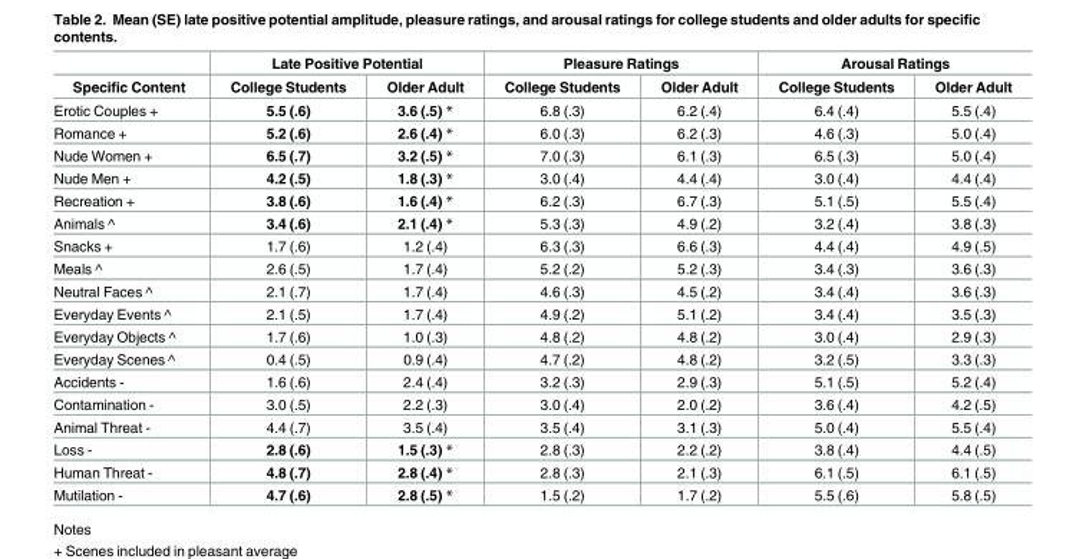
<table><thead><tr><td rowspan="2">Specific Content</td><td colspan="2">Late Positive Potential</td><td colspan="2">Pleasure Ratings</td><td colspan="2">Arousal Ratings</td></tr><tr><td>College Students</td><td>Older Adult</td><td>College Students</td><td>Older Adult</td><td>College Students</td><td>Older Adult</td></tr></thead><tbody><tr><td>Erotic Couples +</td><td>5.5 (.6)</td><td>3.6 (.5) *</td><td>6.8 (.3)</td><td>6.2 (.4)</td><td>6.4 (.4)</td><td>5.5 (.4)</td></tr><tr><td>Romance +</td><td>5.2 (.6)</td><td>2.6 (.4) *</td><td>6.0 (.3)</td><td>6.2 (.3)</td><td>4.6 (.3)</td><td>5.0 (.4)</td></tr><tr><td>Nude Women +</td><td>6.5 (.7)</td><td>3.2 (.5) *</td><td>7.0 (.3)</td><td>6.1 (.3)</td><td>6.5 (.3)</td><td>5.0 (.4)</td></tr><tr><td>Nude Men +</td><td>4.2 (.5)</td><td>1.8 (.3) *</td><td>3.0 (.4)</td><td>4.4 (.4)</td><td>3.0 (.4)</td><td>4.4 (.4)</td></tr><tr><td>Recreation +</td><td>3.8 (.6)</td><td>1.6 (.4) *</td><td>6.2 (.3)</td><td>6.7 (.3)</td><td>5.1 (.5)</td><td>5.5 (.4)</td></tr><tr><td>Animals ^</td><td>3.4 (.6)</td><td>2.1 (.4) *</td><td>5.3 (.3)</td><td>4.9 (.2)</td><td>3.2 (.4)</td><td>3.8 (.3)</td></tr><tr><td>Snacks +</td><td>1.7 (.6)</td><td>1.2 (.4)</td><td>6.3 (.3)</td><td>6.6 (.3)</td><td>4.4 (.4)</td><td>4.9 (.5)</td></tr><tr><td>Meals ^</td><td>2.6 (.5)</td><td>1.7 (.4)</td><td>5.2 (.2)</td><td>5.2 (.3)</td><td>3.4 (.3)</td><td>3.6 (.3)</td></tr><tr><td>Neutral Faces ^</td><td>2.1 (.7)</td><td>1.7 (.4)</td><td>4.6 (.3)</td><td>4.5 (.2)</td><td>3.4 (.4)</td><td>3.6 (.3)</td></tr><tr><td>Everyday Events ^</td><td>2.1 (.5)</td><td>1.7 (.4)</td><td>4.9 (.2)</td><td>5.1 (.2)</td><td>3.4 (.4)</td><td>3.5 (.3)</td></tr><tr><td>Everyday Objects ^</td><td>1.7 (.6)</td><td>1.0 (.3)</td><td>4.8 (.2)</td><td>4.8 (.2)</td><td>3.0 (.4)</td><td>2.9 (.3)</td></tr><tr><td>Everyday Scenes ^</td><td>0.4 (.5)</td><td>0.9 (.4)</td><td>4.7 (.2)</td><td>4.8 (.2)</td><td>3.2 (.5)</td><td>3.3 (.3)</td></tr><tr><td>Accidents -</td><td>1.6 (.6)</td><td>2.4 (.4)</td><td>3.2 (.3)</td><td>2.9 (.3)</td><td>5.1 (.5)</td><td>5.2 (.4)</td></tr><tr><td>Contamination -</td><td>3.0 (.5)</td><td>2.2 (.3)</td><td>3.0 (.4)</td><td>2.0 (.2)</td><td>3.6 (.4)</td><td>4.2 (.5)</td></tr><tr><td>Animal Threat -</td><td>4.4 (.7)</td><td>3.5 (.4)</td><td>3.5 (.4)</td><td>3.1 (.3)</td><td>5.0 (.4)</td><td>5.5 (.4)</td></tr><tr><td>Loss -</td><td>2.8 (.6)</td><td>1.5 (.3) *</td><td>2.8 (.3)</td><td>2.2 (.2)</td><td>3.8 (.4)</td><td>4.4 (.5)</td></tr><tr><td>Human Threat -</td><td>4.8 (.7)</td><td>2.8 (.4) *</td><td>2.8 (.3)</td><td>2.1 (.3)</td><td>6.1 (.5)</td><td>6.1 (.5)</td></tr><tr><td>Mutilation -</td><td>4.7 (.6)</td><td>2.8 (.5) *</td><td>1.5 (.2)</td><td>1.7 (.2)</td><td>5.5 (.6)</td><td>5.8 (.5)</td></tr></tbody></table>